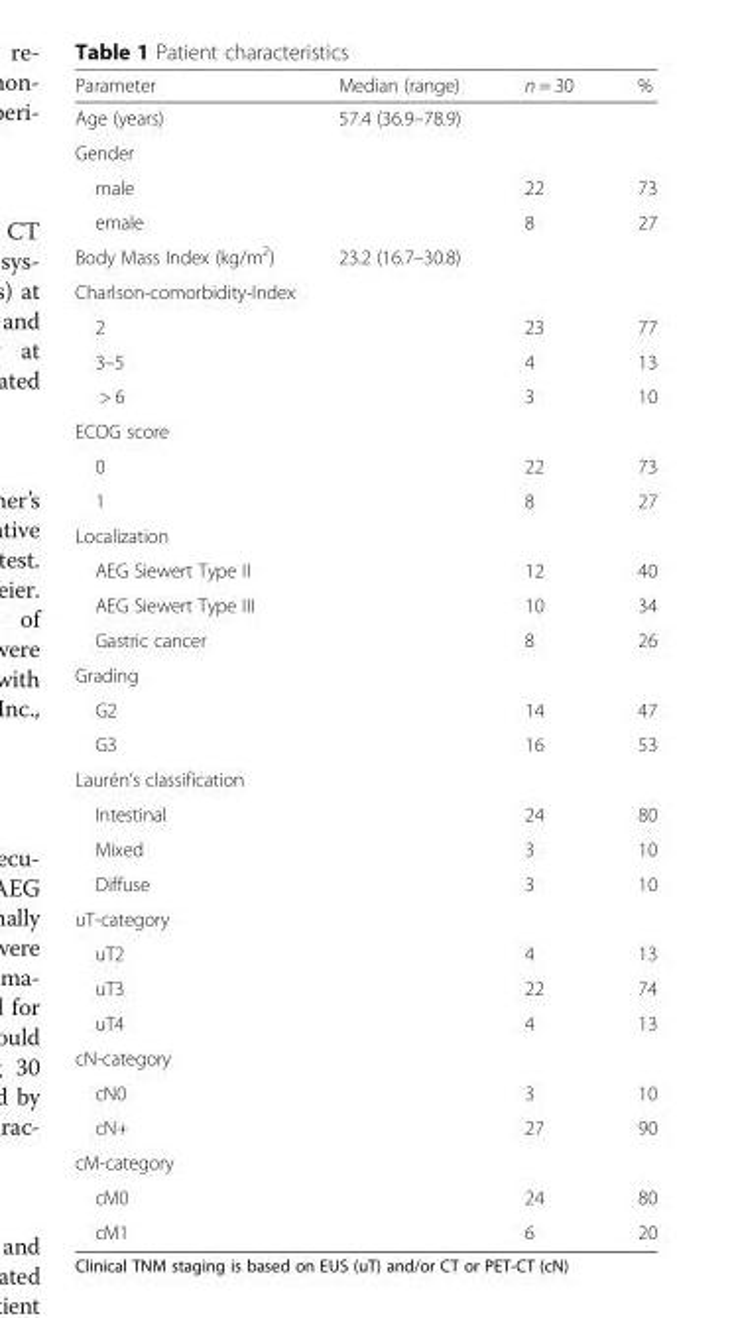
<table><thead><tr><td>Parameter</td><td>Median (range)</td><td>n = 30</td><td>%</td></tr></thead><tbody><tr><td>Age (years)</td><td>57.4 (36.9–78.9)</td><td colspan="2"></td></tr><tr><td colspan="4">Gender</td></tr><tr><td>male</td><td rowspan="2"></td><td>22</td><td>73</td></tr><tr><td>emale</td><td>8</td><td>27</td></tr><tr><td>Body Mass Index (kg/m<sup>2</sup>)</td><td>23.2 (16.7–30.8)</td><td colspan="2"></td></tr><tr><td colspan="4">Charlson-comorbidity-Index</td></tr><tr><td>2</td><td rowspan="3"></td><td>23</td><td>77</td></tr><tr><td>3–5</td><td>4</td><td>13</td></tr><tr><td>&gt; 6</td><td>3</td><td>10</td></tr><tr><td colspan="4">ECOG score</td></tr><tr><td>0</td><td rowspan="2"></td><td>22</td><td>73</td></tr><tr><td>1</td><td>8</td><td>27</td></tr><tr><td colspan="4">Localization</td></tr><tr><td>AEG Siewert Type II</td><td rowspan="3"></td><td>12</td><td>40</td></tr><tr><td>AEG Siewert Type III</td><td>10</td><td>34</td></tr><tr><td>Gastric cancer</td><td>8</td><td>26</td></tr><tr><td colspan="4">Grading</td></tr><tr><td>G2</td><td rowspan="2"></td><td>14</td><td>47</td></tr><tr><td>G3</td><td>16</td><td>53</td></tr><tr><td colspan="4">Laurén’s classification</td></tr><tr><td>Intestinal</td><td rowspan="3"></td><td>24</td><td>80</td></tr><tr><td>Mixed</td><td>3</td><td>10</td></tr><tr><td>Diffuse</td><td>3</td><td>10</td></tr><tr><td colspan="4">uT-category</td></tr><tr><td>uT2</td><td rowspan="3"></td><td>4</td><td>13</td></tr><tr><td>uT3</td><td>22</td><td>74</td></tr><tr><td>uT4</td><td>4</td><td>13</td></tr><tr><td colspan="4">cN-category</td></tr><tr><td>cN0</td><td rowspan="2"></td><td>3</td><td>10</td></tr><tr><td>cN+</td><td>27</td><td>90</td></tr><tr><td colspan="4">cM-category</td></tr><tr><td>cM0</td><td rowspan="2"></td><td>24</td><td>80</td></tr><tr><td>cM1</td><td>6</td><td>20</td></tr></tbody></table>